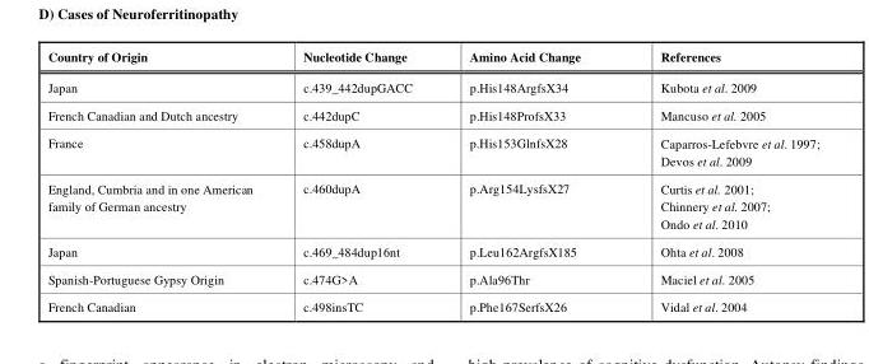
<table><thead><tr><td>Country of Origin</td><td>Nucleotide Change</td><td>Amino Acid Change</td><td>References</td></tr></thead><tbody><tr><td>Japan</td><td>c.439_442dupGACC</td><td>p.His148ArgfsX34</td><td>Kubota et al. 2009</td></tr><tr><td>French Canadian and Dutch ancestry</td><td>c.442dupC</td><td>p.His148ProfsX33</td><td>Mancuso et al. 2005</td></tr><tr><td>France</td><td>c.458dupA</td><td>p.His153GlnfsX28</td><td>Caparros-Lefebvre et al. 1997; Devos et al. 2009</td></tr><tr><td>England, Cumbria and in one American family of German ancestry</td><td>c.460dupA</td><td>p.Arg154LysfsX27</td><td>Curtis et al. 2001; Chinnery et al. 2007; Ondo et al. 2010</td></tr><tr><td>Japan</td><td>c.469_484dup16nt</td><td>p.Leu162ArgfsX185</td><td>Ohta et al. 2008</td></tr><tr><td>Spanish-Portuguese Gypsy Origin</td><td>c.474G&gt;A</td><td>p.Ala96Thr</td><td>Maciel et al. 2005</td></tr><tr><td>French Canadian</td><td>c.498insTC</td><td>p.Phe167SerfsX26</td><td>Vidal et al. 2004</td></tr></tbody></table>